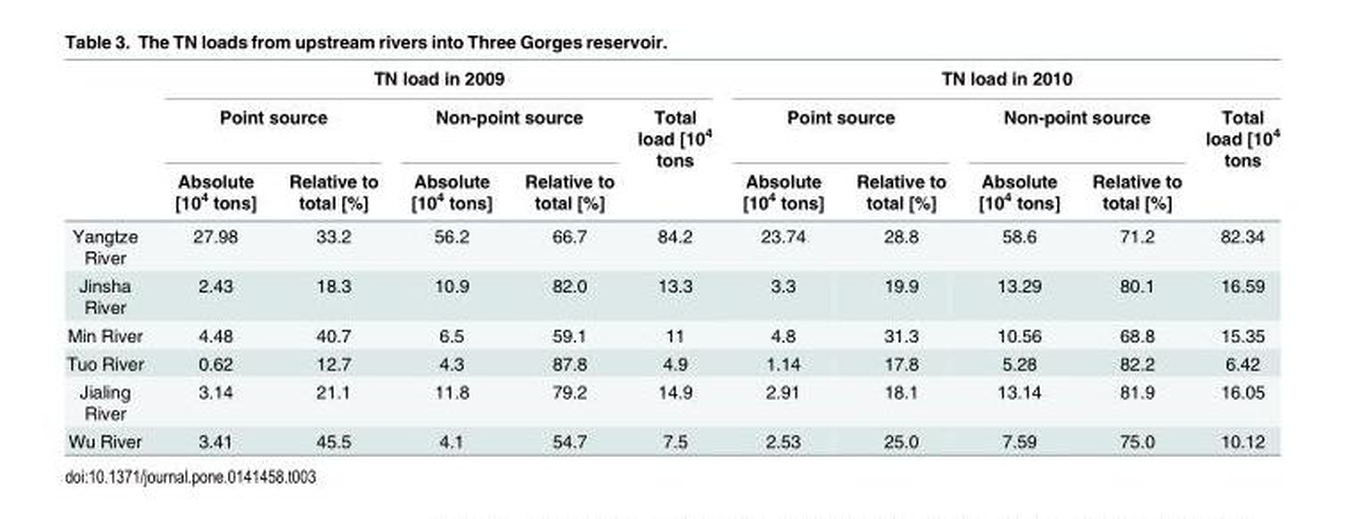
<table><thead><tr><td rowspan="3"></td><td colspan="5">TN load in 2009</td><td colspan="5">TN load in 2010</td></tr><tr><td colspan="2">Point source</td><td colspan="2">Non-point source</td><td rowspan="2">Total load [10<sup>4</sup> tons</td><td colspan="2">Point source</td><td colspan="2">Non-point source</td><td rowspan="2">Total load [10<sup>4</sup> tons</td></tr><tr><td>Absolute [10<sup>4</sup> tons]</td><td>Relative to total [%]</td><td>Absolute [10<sup>4</sup> tons]</td><td>Relative to total [%]</td><td>Absolute [10<sup>4</sup> tons]</td><td>Relative to total [%]</td><td>Absolute [10<sup>4</sup> tons]</td><td>Relative to total [%]</td></tr></thead><tbody><tr><td>Yangtze River</td><td>27.98</td><td>33.2</td><td>56.2</td><td>66.7</td><td>84.2</td><td>23.74</td><td>28.8</td><td>58.6</td><td>71.2</td><td>82.34</td></tr><tr><td>Jinsha River</td><td>2.43</td><td>18.3</td><td>10.9</td><td>82.0</td><td>13.3</td><td>3.3</td><td>19.9</td><td>13.29</td><td>80.1</td><td>16.59</td></tr><tr><td>Min River</td><td>4.48</td><td>40.7</td><td>6.5</td><td>59.1</td><td>11</td><td>4.8</td><td>31.3</td><td>10.56</td><td>68.8</td><td>15.35</td></tr><tr><td>Tuo River</td><td>0.62</td><td>12.7</td><td>4.3</td><td>87.8</td><td>4.9</td><td>1.14</td><td>17.8</td><td>5.28</td><td>82.2</td><td>6.42</td></tr><tr><td>Jialing River</td><td>3.14</td><td>21.1</td><td>11.8</td><td>79.2</td><td>14.9</td><td>2.91</td><td>18.1</td><td>13.14</td><td>81.9</td><td>16.05</td></tr><tr><td>Wu River</td><td>3.41</td><td>45.5</td><td>4.1</td><td>54.7</td><td>7.5</td><td>2.53</td><td>25.0</td><td>7.59</td><td>75.0</td><td>10.12</td></tr></tbody></table>